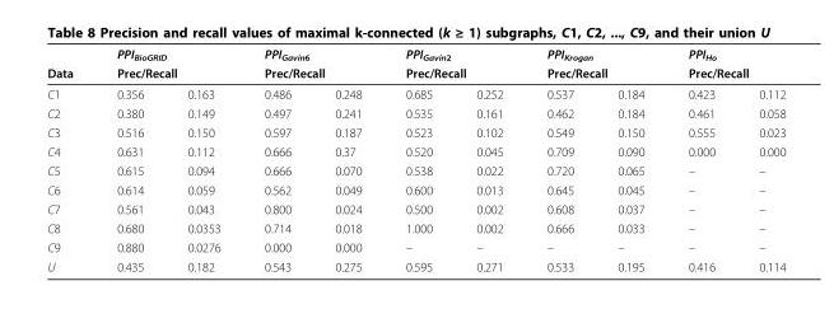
<table><thead><tr><td rowspan="3">Data C1</td><td rowspan="2" colspan="2">PPI<sub>BioGRID</sub> Prec/Recall</td><td rowspan="2" colspan="2">PPI<sub>Gavin6</sub> Prec/Recall</td><td rowspan="2" colspan="2">PPI<sub>Gavin2</sub> Prec/Recall</td><td rowspan="2" colspan="2">PPI<sub>Krogan</sub> Prec/Recall</td><td rowspan="2" colspan="2">PPI<sub>Ho</sub> Prec/Recall</td></tr><tr></tr><tr><td>0.356</td><td>0.163</td><td>0.486</td><td>0.248</td><td>0.685</td><td>0.252</td><td>0.537</td><td>0.184</td><td>0.423</td><td>0.112</td></tr></thead><tbody><tr><td>C2</td><td>0.380</td><td>0.149</td><td>0.497</td><td>0.241</td><td>0.535</td><td>0.161</td><td>0.462</td><td>0.184</td><td>0.461</td><td>0.058</td></tr><tr><td>C3</td><td>0.516</td><td>0.150</td><td>0.597</td><td>0.187</td><td>0.523</td><td>0.102</td><td>0.549</td><td>0.150</td><td>0.555</td><td>0.023</td></tr><tr><td>C4</td><td>0.631</td><td>0.112</td><td>0.666</td><td>0.37</td><td>0.520</td><td>0.045</td><td>0.709</td><td>0.090</td><td>0.000</td><td>0.000</td></tr><tr><td>C5</td><td>0.615</td><td>0.094</td><td>0.666</td><td>0.070</td><td>0.538</td><td>0.022</td><td>0.720</td><td>0.065</td><td>–</td><td>–</td></tr><tr><td>C6</td><td>0.614</td><td>0.059</td><td>0.562</td><td>0.049</td><td>0.600</td><td>0.013</td><td>0.645</td><td>0.045</td><td>–</td><td>–</td></tr><tr><td>C7</td><td>0.561</td><td>0.043</td><td>0.800</td><td>0.024</td><td>0.500</td><td>0.002</td><td>0.608</td><td>0.037</td><td>–</td><td>–</td></tr><tr><td>C8</td><td>0.680</td><td>0.0353</td><td>0.714</td><td>0.018</td><td>1.000</td><td>0.002</td><td>0.666</td><td>0.033</td><td>–</td><td>–</td></tr><tr><td>C9</td><td>0.880</td><td>0.0276</td><td>0.000</td><td>0.000</td><td>–</td><td>–</td><td>–</td><td>–</td><td>–</td><td>–</td></tr><tr><td>U</td><td>0.435</td><td>0.182</td><td>0.543</td><td>0.275</td><td>0.595</td><td>0.271</td><td>0.533</td><td>0.195</td><td>0.416</td><td>0.114</td></tr></tbody></table>